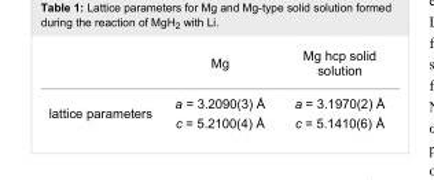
<table><thead><tr><td></td><td>Mg</td><td>Mg hcp solid solution</td></tr></thead><tbody><tr><td rowspan="2">lattice parameters</td><td>a = 3.2090(3) Å</td><td>a = 3.1970(2) Å</td></tr><tr><td>c = 5.2100(4) Å</td><td>c = 5.1410(6) Å</td></tr></tbody></table>